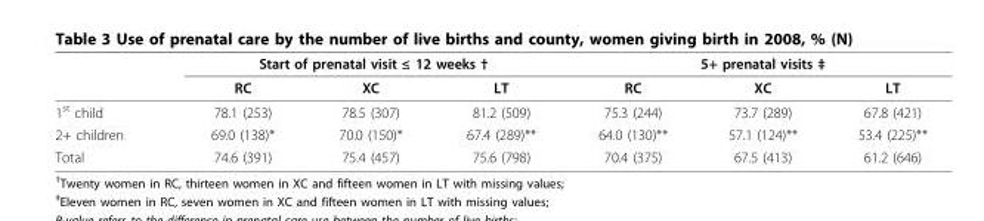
<table><thead><tr><td rowspan="2"></td><td colspan="3">Start of prenatal visit ≤ 12 weeks †</td><td colspan="3">5+ prenatal visits ‡</td></tr><tr><td>RC</td><td>XC</td><td>LT</td><td>RC</td><td>XC</td><td>LT</td></tr></thead><tbody><tr><td>1<sup>st</sup> child</td><td>78.1 (253)</td><td>78.5 (307)</td><td>81.2 (509)</td><td>75.3 (244)</td><td>73.7 (289)</td><td>67.8 (421)</td></tr><tr><td>2+ children</td><td>69.0 (138)*</td><td>70.0 (150)*</td><td>67.4 (289)**</td><td>64.0 (130)**</td><td>57.1 (124)**</td><td>53.4 (225)**</td></tr><tr><td>Total</td><td>74.6 (391)</td><td>75.4 (457)</td><td>75.6 (798)</td><td>70.4 (375)</td><td>67.5 (413)</td><td>61.2 (646)</td></tr></tbody></table>